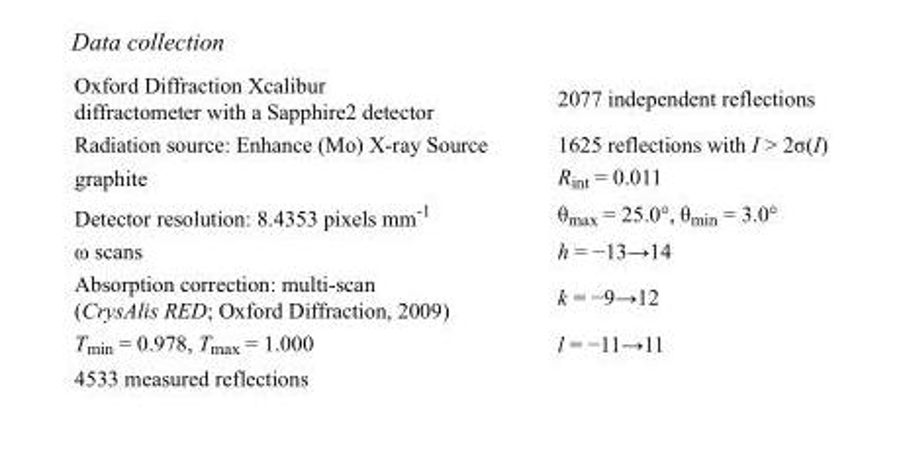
<table><tbody><tr><td>Oxford Diffraction Xcalibur diffractometer with a Sapphire2 detector</td><td>2077 independent reflections</td></tr><tr><td>Radiation source: Enhance (Mo) X-ray Source</td><td>1625 reflections with I &gt; 2σ(I)</td></tr><tr><td>graphite</td><td>R<sub>int</sub> = 0.011</td></tr><tr><td>Detector resolution: 8.4353 pixels mm<sup>-1</sup></td><td>θ<sub>max</sub> = 25.0°, θ<sub>min</sub> = 3.0°</td></tr><tr><td>ω scans</td><td>h = −13→14</td></tr><tr><td>Absorption correction: multi-scan (CrysAlis RED; Oxford Diffraction, 2009)</td><td>k = −9→12</td></tr><tr><td>T<sub>min</sub> = 0.978, T<sub>max</sub> = 1.000</td><td>l = −11→11</td></tr><tr><td>4533 measured reflections</td><td></td></tr></tbody></table>